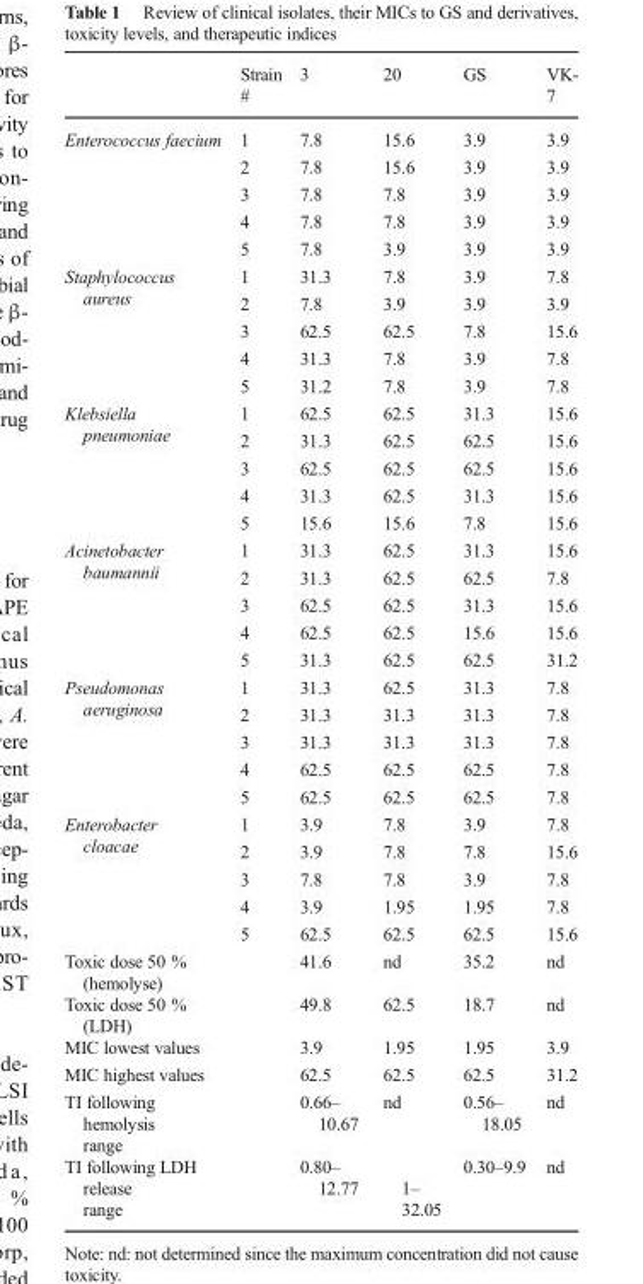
<table><thead><tr><td></td><td>Strain #</td><td>3</td><td>20</td><td>GS</td><td>VK- 7</td></tr></thead><tbody><tr><td rowspan="5">Enterococcus faecium</td><td>1</td><td>7.8</td><td>15.6</td><td>3.9</td><td>3.9</td></tr><tr><td>2</td><td>7.8</td><td>15.6</td><td>3.9</td><td>3.9</td></tr><tr><td>3</td><td>7.8</td><td>7.8</td><td>3.9</td><td>3.9</td></tr><tr><td>4</td><td>7.8</td><td>7.8</td><td>3.9</td><td>3.9</td></tr><tr><td>5</td><td>7.8</td><td>3.9</td><td>3.9</td><td>3.9</td></tr><tr><td rowspan="5">Staphylococcus aureus</td><td>1</td><td>31.3</td><td>7.8</td><td>3.9</td><td>7.8</td></tr><tr><td>2</td><td>7.8</td><td>3.9</td><td>3.9</td><td>3.9</td></tr><tr><td>3</td><td>62.5</td><td>62.5</td><td>7.8</td><td>15.6</td></tr><tr><td>4</td><td>31.3</td><td>7.8</td><td>3.9</td><td>7.8</td></tr><tr><td>5</td><td>31.2</td><td>7.8</td><td>3.9</td><td>7.8</td></tr><tr><td rowspan="5">Klebsiella pneumoniae</td><td>1</td><td>62.5</td><td>62.5</td><td>31.3</td><td>15.6</td></tr><tr><td>2</td><td>31.3</td><td>62.5</td><td>62.5</td><td>15.6</td></tr><tr><td>3</td><td>62.5</td><td>62.5</td><td>62.5</td><td>15.6</td></tr><tr><td>4</td><td>31.3</td><td>62.5</td><td>31.3</td><td>15.6</td></tr><tr><td>5</td><td>15.6</td><td>15.6</td><td>7.8</td><td>15.6</td></tr><tr><td rowspan="5">Acinetobacter baumannii</td><td>1</td><td>31.3</td><td>62.5</td><td>31.3</td><td>15.6</td></tr><tr><td>2</td><td>31.3</td><td>62.5</td><td>62.5</td><td>7.8</td></tr><tr><td>3</td><td>62.5</td><td>62.5</td><td>31.3</td><td>15.6</td></tr><tr><td>4</td><td>62.5</td><td>62.5</td><td>15.6</td><td>15.6</td></tr><tr><td>5</td><td>31.3</td><td>62.5</td><td>62.5</td><td>31.2</td></tr><tr><td rowspan="5">Pseudomonas aeruginosa</td><td>1</td><td>31.3</td><td>62.5</td><td>31.3</td><td>7.8</td></tr><tr><td>2</td><td>31.3</td><td>31.3</td><td>31.3</td><td>7.8</td></tr><tr><td>3</td><td>31.3</td><td>31.3</td><td>31.3</td><td>7.8</td></tr><tr><td>4</td><td>62.5</td><td>62.5</td><td>62.5</td><td>7.8</td></tr><tr><td>5</td><td>62.5</td><td>62.5</td><td>62.5</td><td>7.8</td></tr><tr><td rowspan="5">Enterobacter cloacae</td><td>1</td><td>3.9</td><td>7.8</td><td>3.9</td><td>7.8</td></tr><tr><td>2</td><td>3.9</td><td>7.8</td><td>7.8</td><td>15.6</td></tr><tr><td>3</td><td>7.8</td><td>7.8</td><td>3.9</td><td>7.8</td></tr><tr><td>4</td><td>3.9</td><td>1.95</td><td>1.95</td><td>7.8</td></tr><tr><td>5</td><td>62.5</td><td>62.5</td><td>62.5</td><td>15.6</td></tr><tr><td>Toxic dose 50 % (hemolyse)</td><td></td><td>41.6</td><td>nd</td><td>35.2</td><td>nd</td></tr><tr><td>Toxic dose 50 % (LDH)</td><td></td><td>49.8</td><td>62.5</td><td>18.7</td><td>nd</td></tr><tr><td>MIC lowest values</td><td></td><td>3.9</td><td>1.95</td><td>1.95</td><td>3.9</td></tr><tr><td>MIC highest values</td><td></td><td>62.5</td><td>62.5</td><td>62.5</td><td>31.2</td></tr><tr><td>TI following hemolysis range</td><td></td><td>0.66– 10.67</td><td>nd</td><td>0.56– 18.05</td><td>nd</td></tr><tr><td>TI following LDH release range</td><td></td><td>0.80– 12.77</td><td>1– 32.05</td><td>0.30–9.9</td><td>nd</td></tr></tbody></table>